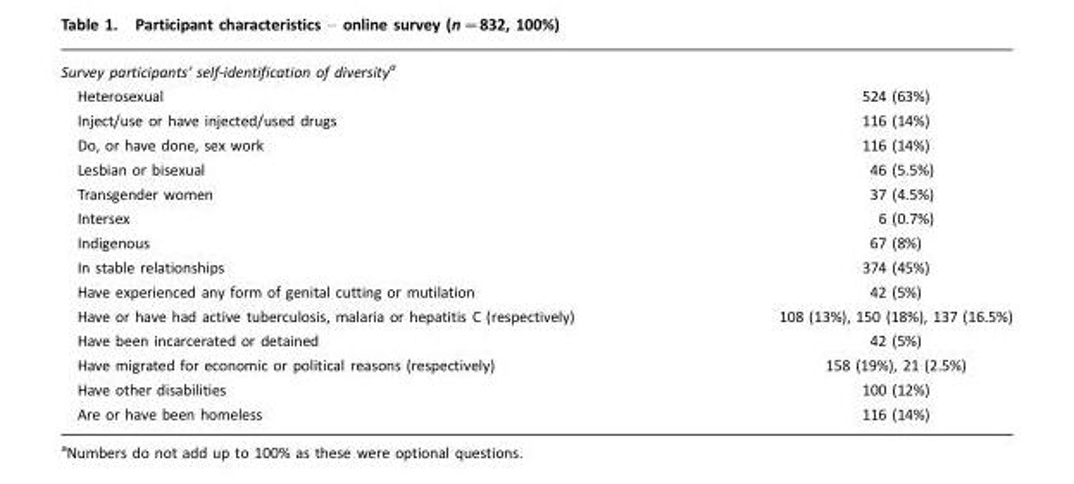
<table><tbody><tr><td colspan="2">Survey participants’ self-identification of diversity<sup>a</sup></td></tr><tr><td>Heterosexual</td><td>524 (63%)</td></tr><tr><td>Inject/use or have injected/used drugs</td><td>116 (14%)</td></tr><tr><td>Do, or have done, sex work</td><td>116 (14%)</td></tr><tr><td>Lesbian or bisexual</td><td>46 (5.5%)</td></tr><tr><td>Transgender women</td><td>37 (4.5%)</td></tr><tr><td>Intersex</td><td>6 (0.7%)</td></tr><tr><td>Indigenous</td><td>67 (8%)</td></tr><tr><td>In stable relationships</td><td>374 (45%)</td></tr><tr><td>Have experienced any form of genital cutting or mutilation</td><td>42 (5%)</td></tr><tr><td>Have or have had active tuberculosis, malaria or hepatitis C (respectively)</td><td>108 (13%), 150 (18%), 137 (16.5%)</td></tr><tr><td>Have been incarcerated or detained</td><td>42 (5%)</td></tr><tr><td>Have migrated for economic or political reasons (respectively)</td><td>158 (19%), 21 (2.5%)</td></tr><tr><td>Have other disabilities</td><td>100 (12%)</td></tr><tr><td>Are or have been homeless</td><td>116 (14%)</td></tr></tbody></table>